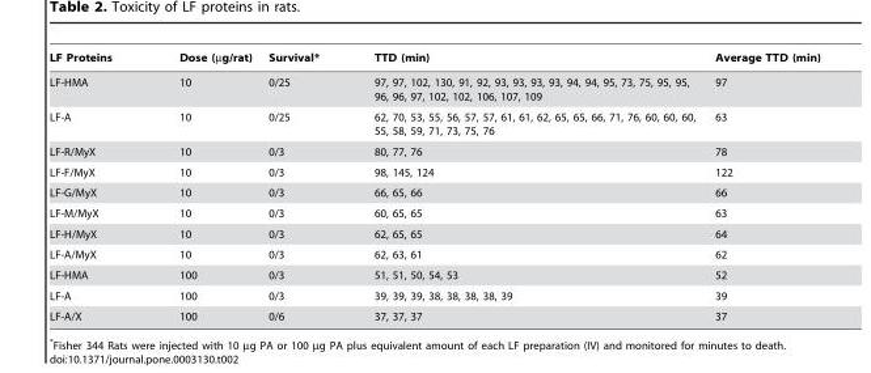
<table><thead><tr><td>LF Proteins</td><td>Dose (µg/rat)</td><td>Survival*</td><td>TTD (min)</td><td>Average TTD (min)</td></tr></thead><tbody><tr><td>LF-HMA</td><td>10</td><td>0/25</td><td>97, 97, 102, 130, 91, 92, 93, 93, 93, 93, 94, 94, 95, 73, 75, 95, 95, 96, 96, 97, 102, 102, 106, 107, 109</td><td>97</td></tr><tr><td>LF-A</td><td>10</td><td>0/25</td><td>62, 70, 53, 55, 56, 57, 57, 61, 61, 62, 65, 65, 66, 71, 76, 60, 60, 60, 55, 58, 59, 71, 73, 75, 76</td><td>63</td></tr><tr><td>LF-R/MyX</td><td>10</td><td>0/3</td><td>80, 77, 76</td><td>78</td></tr><tr><td>LF-F/MyX</td><td>10</td><td>0/3</td><td>98, 145, 124</td><td>122</td></tr><tr><td>LF-G/MyX</td><td>10</td><td>0/3</td><td>66, 65, 66</td><td>66</td></tr><tr><td>LF-M/MyX</td><td>10</td><td>0/3</td><td>60, 65, 65</td><td>63</td></tr><tr><td>LF-H/MyX</td><td>10</td><td>0/3</td><td>62, 65, 65</td><td>64</td></tr><tr><td>LF-A/MyX</td><td>10</td><td>0/3</td><td>62, 63, 61</td><td>62</td></tr><tr><td>LF-HMA</td><td>100</td><td>0/3</td><td>51, 51, 50, 54, 53</td><td>52</td></tr><tr><td>LF-A</td><td>100</td><td>0/3</td><td>39, 39, 39, 38, 38, 38, 38, 39</td><td>39</td></tr><tr><td>LF-A/X</td><td>100</td><td>0/6</td><td>37, 37, 37</td><td>37</td></tr></tbody></table>